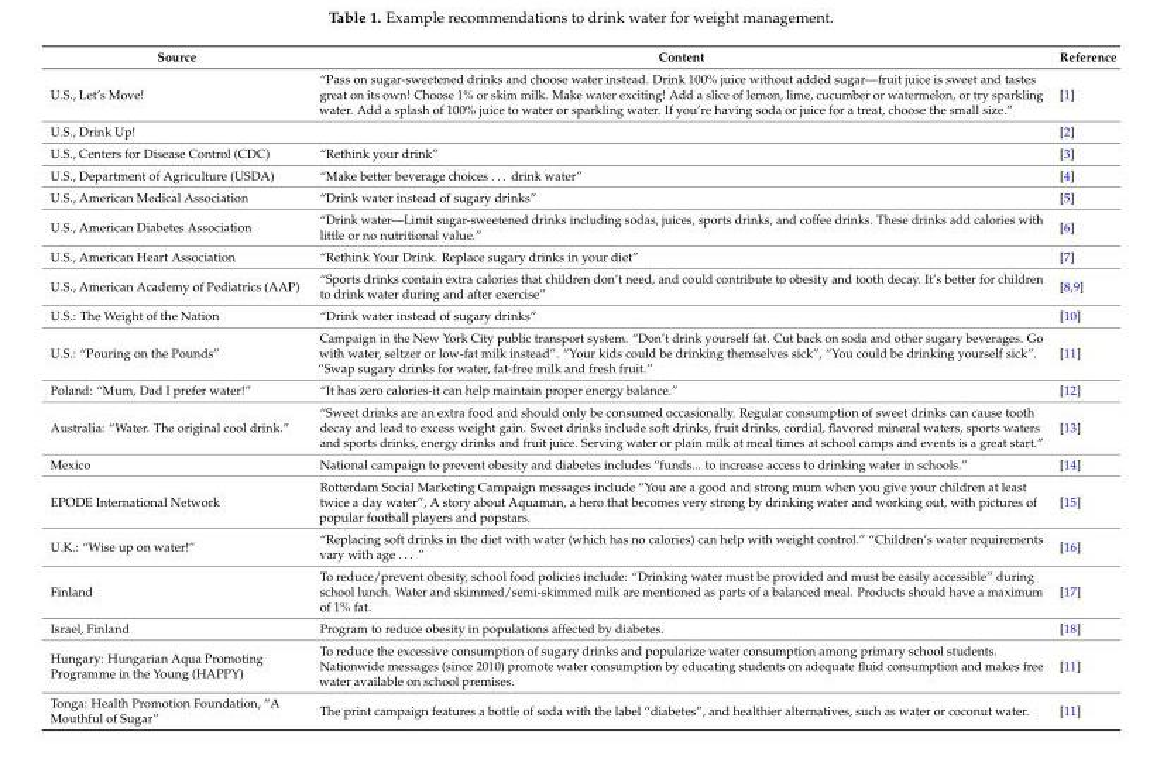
<table><thead><tr><td>Source</td><td>Content</td><td>Reference</td></tr></thead><tbody><tr><td>U.S., Let’s Move!</td><td>“Pass on sugar-sweetened drinks and choose water instead. Drink 100% juice without added sugar—fruit juice is sweet and tastes great on its own! Choose 1% or skim milk. Make water exciting! Add a slice of lemon, lime, cucumber or watermelon, or try sparkling water. Add a splash of 100% juice to water or sparkling water. If you’re having soda or juice for a treat, choose the small size.”</td><td>[1]</td></tr><tr><td>U.S., Drink Up!</td><td></td><td>[2]</td></tr><tr><td>U.S., Centers for Disease Control (CDC)</td><td>“Rethink your drink”</td><td>[3]</td></tr><tr><td>U.S., Department of Agriculture (USDA)</td><td>“Make better beverage choices . . . drink water”</td><td>[4]</td></tr><tr><td>U.S., American Medical Association</td><td>“Drink water instead of sugary drinks”</td><td>[5]</td></tr><tr><td>U.S., American Diabetes Association</td><td>“Drink water—Limit sugar-sweetened drinks including sodas, juices, sports drinks, and coffee drinks. These drinks add calories with little or no nutritional value.”</td><td>[6]</td></tr><tr><td>U.S., American Heart Association</td><td>“Rethink Your Drink. Replace sugary drinks in your diet”</td><td>[7]</td></tr><tr><td>U.S., American Academy of Pediatrics (AAP)</td><td>“Sports drinks contain extra calories that children don’t need, and could contribute to obesity and tooth decay. It’s better for children to drink water during and after exercise”</td><td>[8,9]</td></tr><tr><td>U.S.: The Weight of the Nation</td><td>“Drink water instead of sugary drinks”</td><td>[10]</td></tr><tr><td>U.S.: “Pouring on the Pounds”</td><td>Campaign in the New York City public transport system. “Don’t drink yourself fat. Cut back on soda and other sugary beverages. Go with water, seltzer or low-fat milk instead”. “Your kids could be drinking themselves sick”, “You could be drinking yourself sick”. “Swap sugary drinks for water, fat-free milk and fresh fruit.”</td><td>[11]</td></tr><tr><td>Poland: “Mum, Dad I prefer water!”</td><td>“It has zero calories-it can help maintain proper energy balance.”</td><td>[12]</td></tr><tr><td>Australia: “Water. The original cool drink.”</td><td>“Sweet drinks are an extra food and should only be consumed occasionally. Regular consumption of sweet drinks can cause tooth decay and lead to excess weight gain. Sweet drinks include soft drinks, fruit drinks, cordial, flavored mineral waters, sports waters and sports drinks, energy drinks and fruit juice. Serving water or plain milk at meal times at school camps and events is a great start.”</td><td>[13]</td></tr><tr><td>Mexico</td><td>National campaign to prevent obesity and diabetes includes “funds... to increase access to drinking water in schools.”</td><td>[14]</td></tr><tr><td>EPODE International Network</td><td>Rotterdam Social Marketing Campaign messages include “You are a good and strong mum when you give your children at least twice a day water”, A story about Aquaman, a hero that becomes very strong by drinking water and working out, with pictures of popular football players and popstars.</td><td>[15]</td></tr><tr><td>U.K.: “Wise up on water!”</td><td>“Replacing soft drinks in the diet with water (which has no calories) can help with weight control.” “Children’s water requirements vary with age . . . ”</td><td>[16]</td></tr><tr><td>Finland</td><td>To reduce/prevent obesity, school food policies include: “Drinking water must be provided and must be easily accessible” during school lunch. Water and skimmed/semi-skimmed milk are mentioned as parts of a balanced meal. Products should have a maximum of 1% fat.</td><td>[17]</td></tr><tr><td>Israel, Finland</td><td>Program to reduce obesity in populations affected by diabetes.</td><td>[18]</td></tr><tr><td>Hungary: Hungarian Aqua Promoting Programme in the Young (HAPPY)</td><td>To reduce the excessive consumption of sugary drinks and popularize water consumption among primary school students. Nationwide messages (since 2010) promote water consumption by educating students on adequate fluid consumption and makes free water available on school premises.</td><td>[11]</td></tr><tr><td>Tonga: Health Promotion Foundation, “A Mouthful of Sugar”</td><td>The print campaign features a bottle of soda with the label “diabetes”, and healthier alternatives, such as water or coconut water.</td><td>[11]</td></tr></tbody></table>